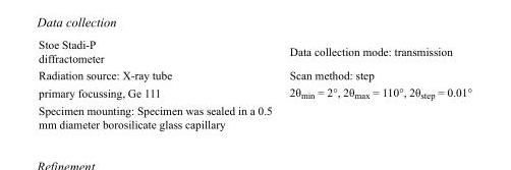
<table><tbody><tr><td>Stoe Stadi-P diffractometer</td><td>Data collection mode: transmission</td></tr><tr><td>Radiation source: X-ray tube</td><td>Scan method: step</td></tr><tr><td>primary focussing, Ge 111</td><td>2θ<sub>min</sub> = 2°, 2θ<sub>max</sub> = 110°, 2θ<sub>step</sub> = 0.01°</td></tr><tr><td>Specimen mounting: Specimen was sealed in a 0.5 mm diameter borosilicate glass capillary</td><td></td></tr></tbody></table>